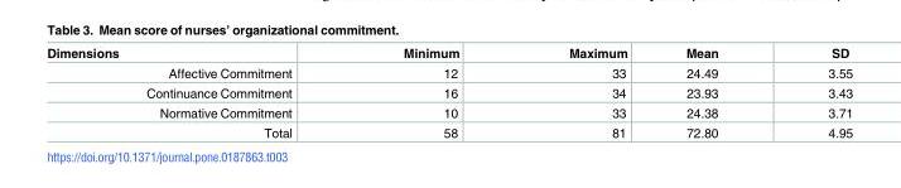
<table><thead><tr><td>Dimensions</td><td>Minimum</td><td>Maximum</td><td>Mean</td><td>SD</td></tr></thead><tbody><tr><td>Affective Commitment</td><td>12</td><td>33</td><td>24.49</td><td>3.55</td></tr><tr><td>Continuance Commitment</td><td>16</td><td>34</td><td>23.93</td><td>3.43</td></tr><tr><td>Normative Commitment</td><td>10</td><td>33</td><td>24.38</td><td>3.71</td></tr><tr><td>Total</td><td>58</td><td>81</td><td>72.80</td><td>4.95</td></tr></tbody></table>